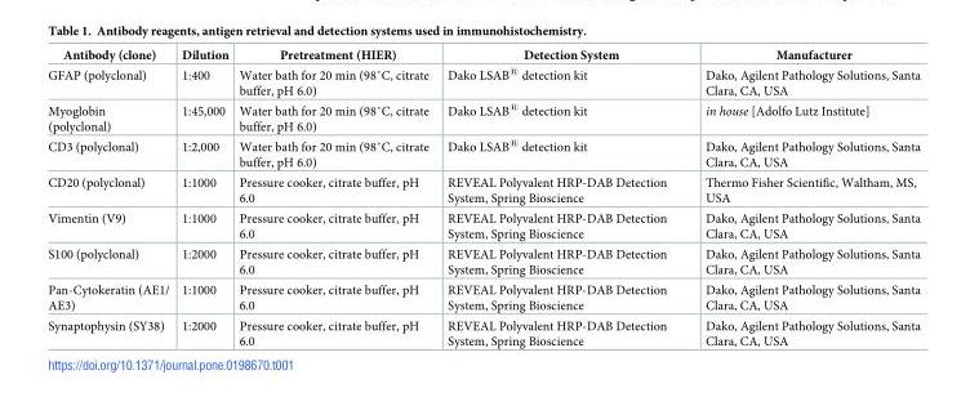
<table><thead><tr><td>Antibody (clone)</td><td>Dilution</td><td>Pretreatment (HIER)</td><td>Detection System</td><td>Manufacturer</td></tr></thead><tbody><tr><td>GFAP (polyclonal)</td><td>1:400</td><td>Water bath for 20 min (98˚C, citrate buffer, pH 6.0)</td><td>Dako LSAB<sup>®</sup> detection kit</td><td>Dako, Agilent Pathology Solutions, Santa Clara, CA, USA</td></tr><tr><td>Myoglobin (polyclonal)</td><td>1:45,000</td><td>Water bath for 20 min (98˚C, citrate buffer, pH 6.0)</td><td>Dako LSAB<sup>®</sup> detection kit</td><td>in house [Adolfo Lutz Institute]</td></tr><tr><td>CD3 (polyclonal)</td><td>1:2,000</td><td>Water bath for 20 min (98˚C, citrate buffer, pH 6.0)</td><td>Dako LSAB<sup>®</sup> detection kit</td><td>Dako, Agilent Pathology Solutions, Santa Clara, CA, USA</td></tr><tr><td>CD20 (polyclonal)</td><td>1:1000</td><td>Pressure cooker, citrate buffer, pH 6.0</td><td>REVEAL Polyvalent HRP-DAB Detection System, Spring Bioscience</td><td>Thermo Fisher Scientific, Waltham, MS, USA</td></tr><tr><td>Vimentin (V9)</td><td>1:1000</td><td>Pressure cooker, citrate buffer, pH 6.0</td><td>REVEAL Polyvalent HRP-DAB Detection System, Spring Bioscience</td><td>Dako, Agilent Pathology Solutions, Santa Clara, CA, USA</td></tr><tr><td>S100 (polyclonal)</td><td>1:2000</td><td>Pressure cooker, citrate buffer, pH 6.0</td><td>REVEAL Polyvalent HRP-DAB Detection System, Spring Bioscience</td><td>Dako, Agilent Pathology Solutions, Santa Clara, CA, USA</td></tr><tr><td>Pan-Cytokeratin (AE1/ AE3)</td><td>1:1000</td><td>Pressure cooker, citrate buffer, pH 6.0</td><td>REVEAL Polyvalent HRP-DAB Detection System, Spring Bioscience</td><td>Dako, Agilent Pathology Solutions, Santa Clara, CA, USA</td></tr><tr><td>Synaptophysin (SY38)</td><td>1:2000</td><td>Pressure cooker, citrate buffer, pH 6.0</td><td>REVEAL Polyvalent HRP-DAB Detection System, Spring Bioscience</td><td>Dako, Agilent Pathology Solutions, Santa Clara, CA, USA</td></tr></tbody></table>